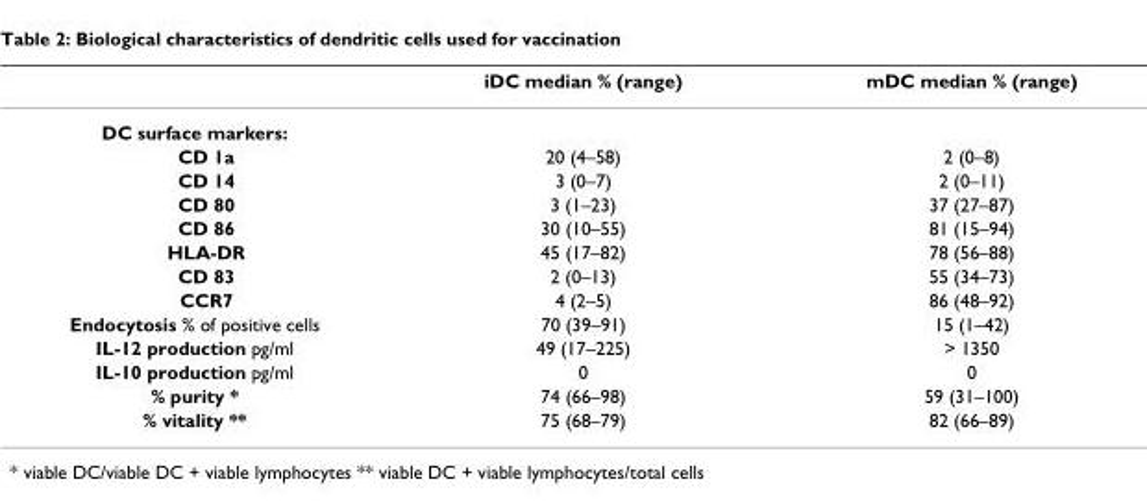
<table><thead><tr><td></td><td>iDC median % (range)</td><td>mDC median % (range)</td></tr></thead><tbody><tr><td colspan="3">DC surface markers:</td></tr><tr><td>CD 1a</td><td>20 (4–58)</td><td>2 (0–8)</td></tr><tr><td>CD 14</td><td>3 (0–7)</td><td>2 (0–11)</td></tr><tr><td>CD 80</td><td>3 (1–23)</td><td>37 (27–87)</td></tr><tr><td>CD 86</td><td>30 (10–55)</td><td>81 (15–94)</td></tr><tr><td>HLA-DR</td><td>45 (17–82)</td><td>78 (56–88)</td></tr><tr><td>CD 83</td><td>2 (0–13)</td><td>55 (34–73)</td></tr><tr><td>CCR7</td><td>4 (2–5)</td><td>86 (48–92)</td></tr><tr><td>Endocytosis % of positive cells</td><td>70 (39–91)</td><td>15 (1–42)</td></tr><tr><td>IL-12 production pg/ml</td><td>49 (17–225)</td><td>&gt; 1350</td></tr><tr><td>IL-10 production pg/ml</td><td>0</td><td>0</td></tr><tr><td>% purity *</td><td>74 (66–98)</td><td>59 (31–100)</td></tr><tr><td>% vitality **</td><td>75 (68–79)</td><td>82 (66–89)</td></tr></tbody></table>